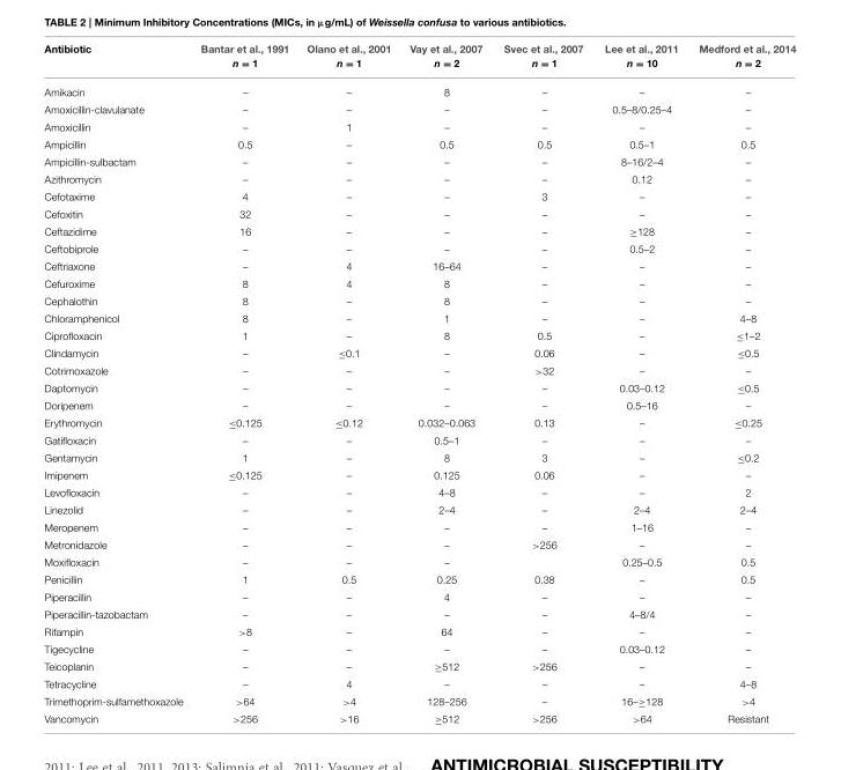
<table><thead><tr><td>Antibiotic</td><td>Bantar et al., 1991 n = 1</td><td>Olano et al., 2001 n = 1</td><td>Vay et al., 2007 n = 2</td><td>Svec et al., 2007 n = 1</td><td>Lee et al., 2011 n = 10</td><td>Medford et al., 2014 n = 2</td></tr></thead><tbody><tr><td>Amikacin</td><td>–</td><td>–</td><td>8</td><td>–</td><td>–</td><td>–</td></tr><tr><td>Amoxicillin-clavulanate</td><td>–</td><td>–</td><td>–</td><td>–</td><td>0.5–8/0.25–4</td><td>–</td></tr><tr><td>Amoxicillin</td><td>–</td><td>1</td><td>–</td><td>–</td><td>–</td><td>–</td></tr><tr><td>Ampicillin</td><td>0.5</td><td>–</td><td>0.5</td><td>0.5</td><td>0.5–1</td><td>0.5</td></tr><tr><td>Ampicillin-sulbactam</td><td>–</td><td>–</td><td>–</td><td>–</td><td>8–16/2–4</td><td>–</td></tr><tr><td>Azithromycin</td><td>–</td><td>–</td><td>–</td><td>–</td><td>0.12</td><td>–</td></tr><tr><td>Cefotaxime</td><td>4</td><td>–</td><td>–</td><td>3</td><td>–</td><td>–</td></tr><tr><td>Cefoxitin</td><td>32</td><td>–</td><td>–</td><td>–</td><td>–</td><td>–</td></tr><tr><td>Ceftazidime</td><td>16</td><td>–</td><td>–</td><td>–</td><td>≥128</td><td>–</td></tr><tr><td>Ceftobiprole</td><td>–</td><td>–</td><td>–</td><td>–</td><td>0.5–2</td><td>–</td></tr><tr><td>Ceftriaxone</td><td>–</td><td>4</td><td>16–64</td><td>–</td><td>–</td><td>–</td></tr><tr><td>Cefuroxime</td><td>8</td><td>4</td><td>8</td><td>–</td><td>–</td><td>–</td></tr><tr><td>Cephalothin</td><td>8</td><td>–</td><td>8</td><td>–</td><td>–</td><td>–</td></tr><tr><td>Chloramphenicol</td><td>8</td><td>–</td><td>1</td><td>–</td><td>–</td><td>4–8</td></tr><tr><td>Ciprofloxacin</td><td>1</td><td>–</td><td>8</td><td>0.5</td><td>–</td><td>≤1–2</td></tr><tr><td>Clindamycin</td><td>–</td><td>≤0.1</td><td>–</td><td>0.06</td><td>–</td><td>≤0.5</td></tr><tr><td>Cotrimoxazole</td><td>–</td><td>–</td><td>–</td><td>&gt;32</td><td>–</td><td>–</td></tr><tr><td>Daptomycin</td><td>–</td><td>–</td><td>–</td><td>–</td><td>0.03–0.12</td><td>≤0.5</td></tr><tr><td>Doripenem</td><td>–</td><td>–</td><td>–</td><td>–</td><td>0.5–16</td><td>–</td></tr><tr><td>Erythromycin</td><td>≤0.125</td><td>≤0.12</td><td>0.032–0.063</td><td>0.13</td><td>–</td><td>≤0.25</td></tr><tr><td>Gatifloxacin</td><td>–</td><td>–</td><td>0.5–1</td><td>–</td><td>–</td><td>–</td></tr><tr><td>Gentamycin</td><td>1</td><td>–</td><td>8</td><td>3</td><td>–</td><td>≤0.2</td></tr><tr><td>Imipenem</td><td>≤0.125</td><td>–</td><td>0.125</td><td>0.06</td><td>–</td><td>–</td></tr><tr><td>Levofloxacin</td><td>–</td><td>–</td><td>4–8</td><td>–</td><td>–</td><td>2</td></tr><tr><td>Linezolid</td><td>–</td><td>–</td><td>2–4</td><td>–</td><td>2–4</td><td>2–4</td></tr><tr><td>Meropenem</td><td>–</td><td>–</td><td>–</td><td>–</td><td>1–16</td><td>–</td></tr><tr><td>Metronidazole</td><td>–</td><td>–</td><td>–</td><td>&gt;256</td><td>–</td><td>–</td></tr><tr><td>Moxifloxacin</td><td>–</td><td>–</td><td>–</td><td></td><td>0.25–0.5</td><td>0.5</td></tr><tr><td>Penicillin</td><td>1</td><td>0.5</td><td>0.25</td><td>0.38</td><td>–</td><td>0.5</td></tr><tr><td>Piperacillin</td><td>–</td><td>–</td><td>4</td><td>–</td><td>–</td><td>–</td></tr><tr><td>Piperacillin-tazobactam</td><td>–</td><td>–</td><td>–</td><td>–</td><td>4–8/4</td><td>–</td></tr><tr><td>Rifampin</td><td>&gt;8</td><td>–</td><td>64</td><td>–</td><td>–</td><td>–</td></tr><tr><td>Tigecycline</td><td>–</td><td>–</td><td>–</td><td>–</td><td>0.03–0.12</td><td>–</td></tr><tr><td>Teicoplanin</td><td>–</td><td>–</td><td>≥512</td><td>&gt;256</td><td>–</td><td>–</td></tr><tr><td>Tetracycline</td><td>–</td><td>4</td><td>–</td><td>–</td><td>–</td><td>4–8</td></tr><tr><td>Trimethoprim-sulfamethoxazole</td><td>&gt;64</td><td>&gt;4</td><td>128–256</td><td>–</td><td>16–≥128</td><td>&gt;4</td></tr><tr><td>Vancomycin</td><td>&gt;256</td><td>&gt;16</td><td>≥512</td><td>&gt;256</td><td>&gt;64</td><td>Resistant</td></tr></tbody></table>